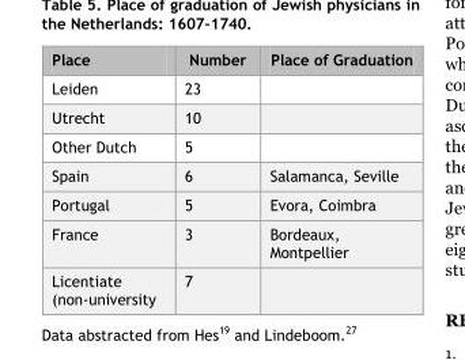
<table><thead><tr><td>Place</td><td>Number</td><td>Place of Graduation</td></tr></thead><tbody><tr><td>Leiden</td><td>23</td><td></td></tr><tr><td>Utrecht</td><td>10</td><td></td></tr><tr><td>Other Dutch</td><td>5</td><td></td></tr><tr><td>Spain</td><td>6</td><td>Salamanca, Seville</td></tr><tr><td>Portugal</td><td>5</td><td>Evora, Coimbra</td></tr><tr><td>France</td><td>3</td><td>Bordeaux, Montpellier</td></tr><tr><td>Licentiate (non-university</td><td>7</td><td></td></tr></tbody></table>